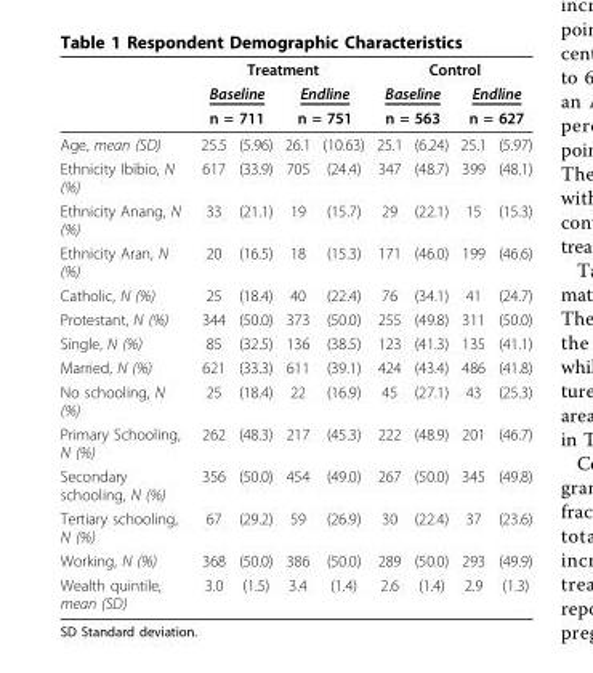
<table><thead><tr><td rowspan="4">Age, mean (SD)</td><td colspan="4">Treatment</td><td colspan="4">Control</td></tr><tr><td rowspan="2" colspan="2">Baseline n = 711</td><td rowspan="2" colspan="2">Endline n = 751</td><td rowspan="2" colspan="2">Baseline n = 563</td><td rowspan="2" colspan="2">Endline n = 627</td></tr><tr></tr><tr><td>25.5</td><td>(5.96)</td><td>26.1</td><td>(10.63)</td><td>25.1</td><td>(6.24)</td><td>25.1</td><td>(5.97)</td></tr></thead><tbody><tr><td>Ethnicity Ibibio, N (%)</td><td>617</td><td>(33.9)</td><td>705</td><td>(24.4)</td><td>347</td><td>(48.7)</td><td>399</td><td>(48.1)</td></tr><tr><td>Ethnicity Anang, N (%)</td><td>33</td><td>(21.1)</td><td>19</td><td>(15.7)</td><td>29</td><td>(22.1)</td><td>15</td><td>(15.3)</td></tr><tr><td>Ethnicity Aran, N (%)</td><td>20</td><td>(16.5)</td><td>18</td><td>(15.3)</td><td>171</td><td>(46.0)</td><td>199</td><td>(46.6)</td></tr><tr><td>Catholic, N (%)</td><td>25</td><td>(18.4)</td><td>40</td><td>(22.4)</td><td>76</td><td>(34.1)</td><td>41</td><td>(24.7)</td></tr><tr><td>Protestant, N (%)</td><td>344</td><td>(50.0)</td><td>373</td><td>(50.0)</td><td>255</td><td>(49.8)</td><td>311</td><td>(50.0)</td></tr><tr><td>Single, N (%)</td><td>85</td><td>(32.5)</td><td>136</td><td>(38.5)</td><td>123</td><td>(41.3)</td><td>135</td><td>(41.1)</td></tr><tr><td>Married, N (%)</td><td>621</td><td>(33.3)</td><td>611</td><td>(39.1)</td><td>424</td><td>(43.4)</td><td>486</td><td>(41.8)</td></tr><tr><td>No schooling, N (%)</td><td>25</td><td>(18.4)</td><td>22</td><td>(16.9)</td><td>45</td><td>(27.1)</td><td>43</td><td>(25.3)</td></tr><tr><td>Primary Schooling, N (%)</td><td>262</td><td>(48.3)</td><td>217</td><td>(45.3)</td><td>222</td><td>(48.9)</td><td>201</td><td>(46.7)</td></tr><tr><td>Secondary schooling, N (%)</td><td>356</td><td>(50.0)</td><td>454</td><td>(49.0)</td><td>267</td><td>(50.0)</td><td>345</td><td>(49.8)</td></tr><tr><td>Tertiary schooling, N (%)</td><td>67</td><td>(29.2)</td><td>59</td><td>(26.9)</td><td>30</td><td>(22.4)</td><td>37</td><td>(23.6)</td></tr><tr><td>Working, N (%)</td><td>368</td><td>(50.0)</td><td>386</td><td>(50.0)</td><td>289</td><td>(50.0)</td><td>293</td><td>(49.9)</td></tr><tr><td>Wealth quintile, mean (SD)</td><td>3.0</td><td>(1.5)</td><td>3.4</td><td>(1.4)</td><td>2.6</td><td>(1.4)</td><td>2.9</td><td>(1.3)</td></tr></tbody></table>